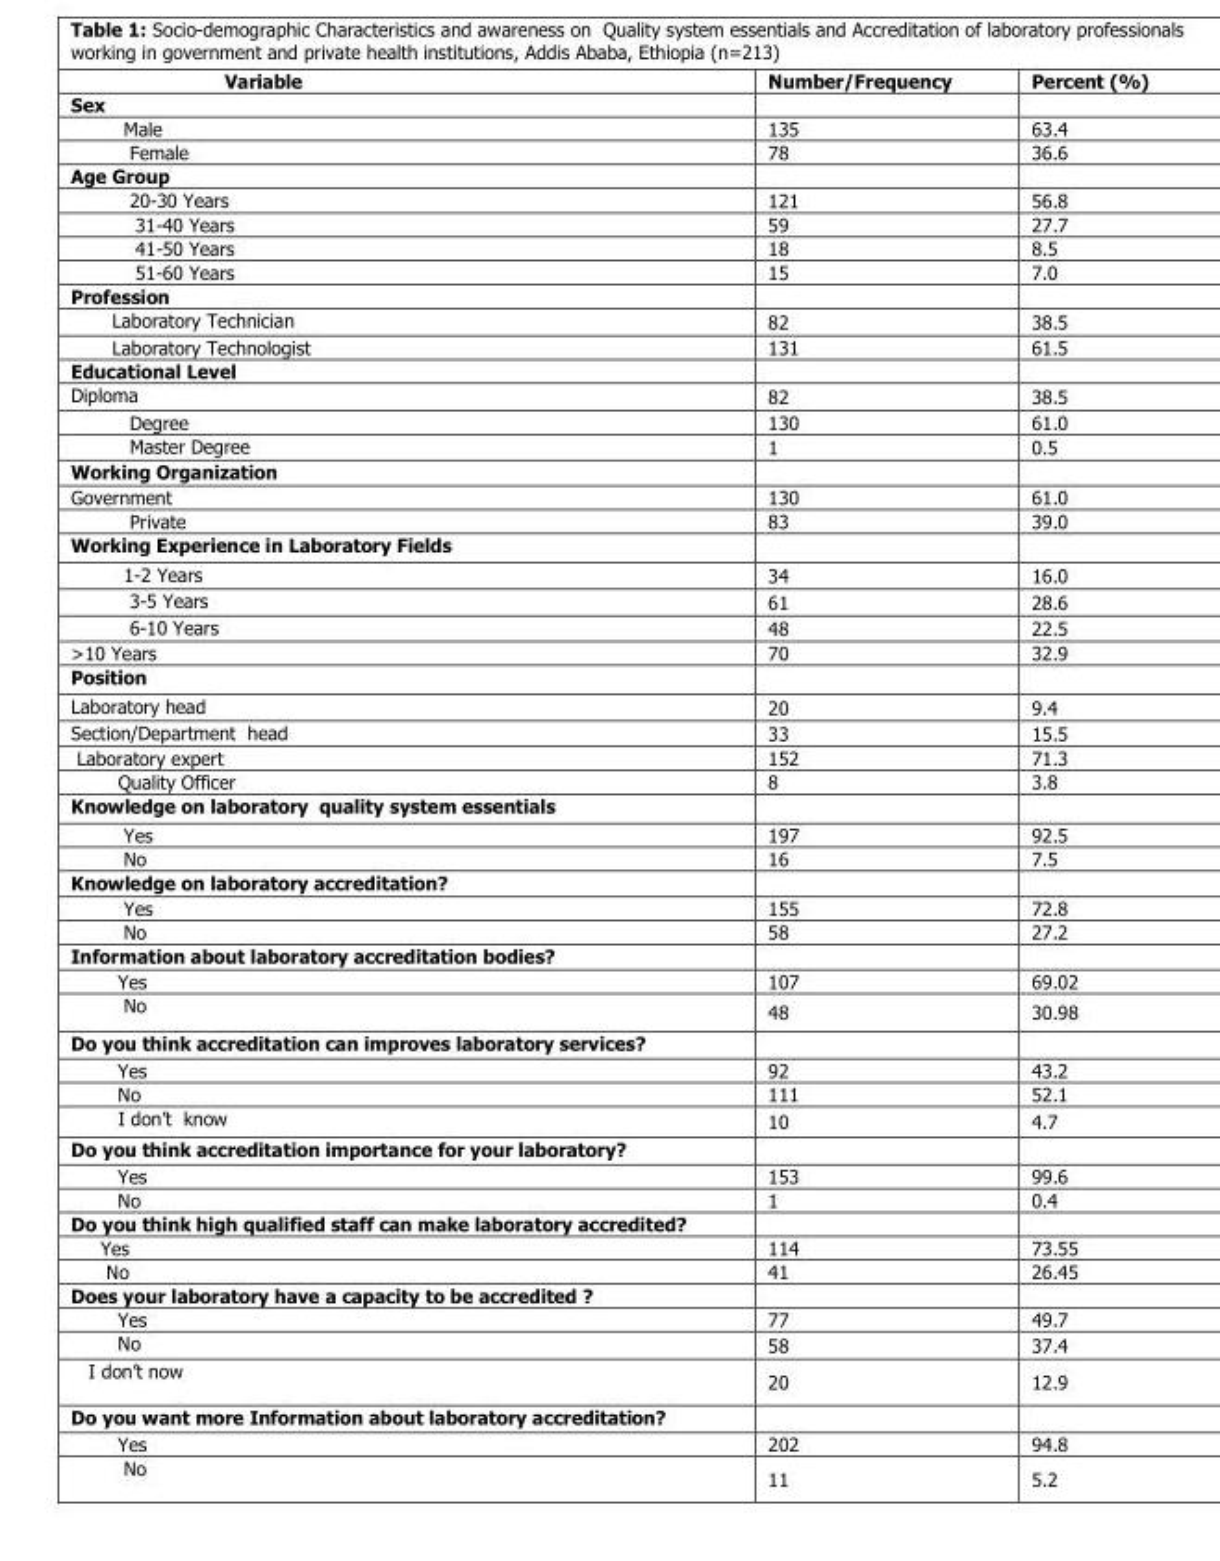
<table><thead><tr><td>Variable</td><td>Number/Frequency</td><td>Percent (%)</td></tr></thead><tbody><tr><td colspan="3">Sex</td></tr><tr><td>Male</td><td>135</td><td>63.4</td></tr><tr><td>Female</td><td>78</td><td>36.6</td></tr><tr><td colspan="3">Age Group</td></tr><tr><td>20-30 Years</td><td>121</td><td>56.8</td></tr><tr><td>31-40 Years</td><td>59</td><td>27.7</td></tr><tr><td>41-50 Years</td><td>18</td><td>8.5</td></tr><tr><td>51-60 Years</td><td>15</td><td>7.0</td></tr><tr><td colspan="3">Profession</td></tr><tr><td>Laboratory Technician</td><td>82</td><td>38.5</td></tr><tr><td>Laboratory Technologist</td><td>131</td><td>61.5</td></tr><tr><td colspan="3">Educational Level</td></tr><tr><td>Diploma</td><td>82</td><td>38.5</td></tr><tr><td>Degree</td><td>130</td><td>61.0</td></tr><tr><td>Master Degree</td><td>1</td><td>0.5</td></tr><tr><td colspan="3">Working Organization</td></tr><tr><td>Government</td><td>130</td><td>61.0</td></tr><tr><td>Private</td><td>83</td><td>39.0</td></tr><tr><td colspan="3">Working Experience in Laboratory Fields</td></tr><tr><td>1-2 Years</td><td>34</td><td>16.0</td></tr><tr><td>3-5 Years</td><td>61</td><td>28.6</td></tr><tr><td>6-10 Years</td><td>48</td><td>22.5</td></tr><tr><td>&gt;10 Years</td><td>70</td><td>32.9</td></tr><tr><td colspan="3">Position</td></tr><tr><td>Laboratory head</td><td>20</td><td>9.4</td></tr><tr><td>Section/Department head</td><td>33</td><td>15.5</td></tr><tr><td>Laboratory expert</td><td>152</td><td>71.3</td></tr><tr><td>Quality Officer</td><td>8</td><td>3.8</td></tr><tr><td colspan="3">Knowledge on laboratory quality system essentials</td></tr><tr><td>Yes</td><td>197</td><td>92.5</td></tr><tr><td>No</td><td>16</td><td>7.5</td></tr><tr><td colspan="3">Knowledge on laboratory accreditation?</td></tr><tr><td>Yes</td><td>155</td><td>72.8</td></tr><tr><td>No</td><td>58</td><td>27.2</td></tr><tr><td colspan="3">Information about laboratory accreditation bodies?</td></tr><tr><td>Yes</td><td>107</td><td>69.02</td></tr><tr><td>No</td><td>48</td><td>30.98</td></tr><tr><td colspan="3">Do you think accreditation can improves laboratory services?</td></tr><tr><td>Yes</td><td>92</td><td>43.2</td></tr><tr><td>No</td><td>111</td><td>52.1</td></tr><tr><td>I don’t know</td><td>10</td><td>4.7</td></tr><tr><td colspan="3">Do you think accreditation importance for your laboratory?</td></tr><tr><td>Yes</td><td>153</td><td>99.6</td></tr><tr><td>No</td><td>1</td><td>0.4</td></tr><tr><td colspan="3">Do you think high qualified staff can make laboratory accredited?</td></tr><tr><td>Yes</td><td>114</td><td>73.55</td></tr><tr><td>No</td><td>41</td><td>26.45</td></tr><tr><td colspan="3">Does your laboratory have a capacity to be accredited ?</td></tr><tr><td>Yes</td><td>77</td><td>49.7</td></tr><tr><td>No</td><td>58</td><td>37.4</td></tr><tr><td>I don’t now</td><td>20</td><td>12.9</td></tr><tr><td colspan="3">Do you want more Information about laboratory accreditation?</td></tr><tr><td>Yes</td><td>202</td><td>94.8</td></tr><tr><td>No</td><td>11</td><td>5.2</td></tr></tbody></table>